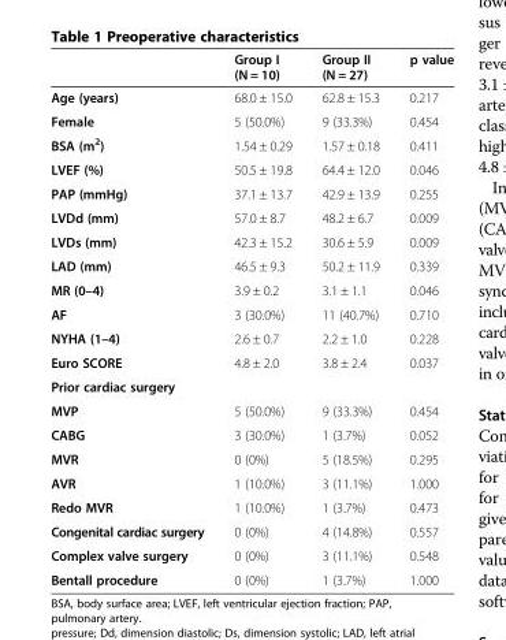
<table><thead><tr><td></td><td>Group I (N = 10)</td><td>Group II (N = 27)</td><td>p value</td></tr></thead><tbody><tr><td>Age (years)</td><td>68.0 ± 15.0</td><td>62.8 ± 15.3</td><td>0.217</td></tr><tr><td>Female</td><td>5 (50.0%)</td><td>9 (33.3%)</td><td>0.454</td></tr><tr><td>BSA (m<sup>2</sup>)</td><td>1.54 ± 0.29</td><td>1.57 ± 0.18</td><td>0.411</td></tr><tr><td>LVEF (%)</td><td>50.5 ± 19.8</td><td>64.4 ± 12.0</td><td>0.046</td></tr><tr><td>PAP (mmHg)</td><td>37.1 ± 13.7</td><td>42.9 ± 13.9</td><td>0.255</td></tr><tr><td>LVDd (mm)</td><td>57.0 ± 8.7</td><td>48.2 ± 6.7</td><td>0.009</td></tr><tr><td>LVDs (mm)</td><td>42.3 ± 15.2</td><td>30.6 ± 5.9</td><td>0.009</td></tr><tr><td>LAD (mm)</td><td>46.5 ± 9.3</td><td>50.2 ± 11.9</td><td>0.339</td></tr><tr><td>MR (0–4)</td><td>3.9 ± 0.2</td><td>3.1 ± 1.1</td><td>0.046</td></tr><tr><td>AF</td><td>3 (30.0%)</td><td>11 (40.7%)</td><td>0.710</td></tr><tr><td>NYHA (1–4)</td><td>2.6 ± 0.7</td><td>2.2 ± 1.0</td><td>0.228</td></tr><tr><td>Euro SCORE</td><td>4.8 ± 2.0</td><td>3.8 ± 2.4</td><td>0.037</td></tr><tr><td colspan="4">Prior cardiac surgery</td></tr><tr><td>MVP</td><td>5 (50.0%)</td><td>9 (33.3%)</td><td>0.454</td></tr><tr><td>CABG</td><td>3 (30.0%)</td><td>1 (3.7%)</td><td>0.052</td></tr><tr><td>MVR</td><td>0 (0%)</td><td>5 (18.5%)</td><td>0.295</td></tr><tr><td>AVR</td><td>1 (10.0%)</td><td>3 (11.1%)</td><td>1.000</td></tr><tr><td>Redo MVR</td><td>1 (10.0%)</td><td>1 (3.7%)</td><td>0.473</td></tr><tr><td>Congenital cardiac surgery</td><td>0 (0%)</td><td>4 (14.8%)</td><td>0.557</td></tr><tr><td>Complex valve surgery</td><td>0 (0%)</td><td>3 (11.1%)</td><td>0.548</td></tr><tr><td>Bentall procedure</td><td>0 (0%)</td><td>1 (3.7%)</td><td>1.000</td></tr></tbody></table>